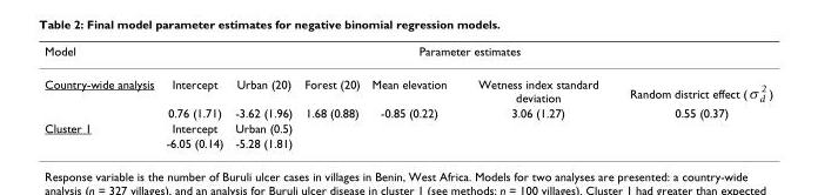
<table><thead><tr><td rowspan="2">Model Country-wide analysis</td><td colspan="6">Parameter estimates</td></tr><tr><td>Intercept</td><td>Urban (20)</td><td>Forest (20)</td><td>Mean elevation</td><td>Wetness index standard deviation</td><td>Random district effect ( ) σ d 2</td></tr></thead><tbody><tr><td></td><td>0.76 (1.71)</td><td>-3.62 (1.96)</td><td>1.68 (0.88)</td><td>-0.85 (0.22)</td><td>3.06 (1.27)</td><td>0.55 (0.37)</td></tr><tr><td rowspan="2">Cluster 1</td><td>Intercept</td><td>Urban (0.5)</td><td></td><td></td><td></td><td></td></tr><tr><td>-6.05 (0.14)</td><td>-5.28 (1.81)</td><td></td><td></td><td></td><td></td></tr></tbody></table>